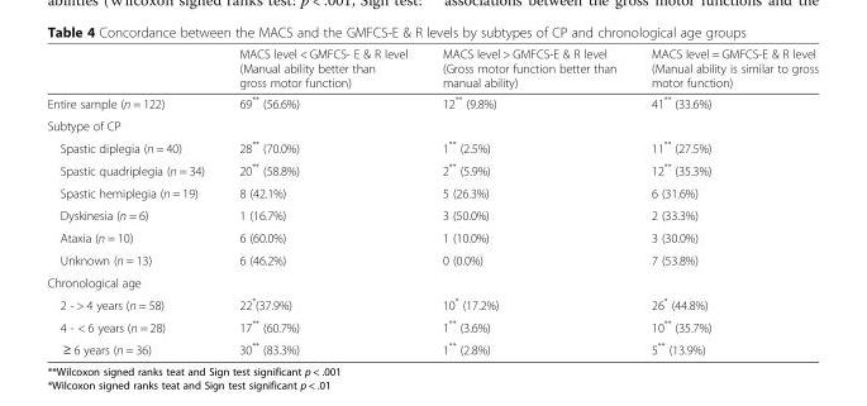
<table><thead><tr><td></td><td>MACS level &lt; GMFCS- E &amp; R level (Manual ability better than gross motor function)</td><td>MACS level &gt; GMFCS-E &amp; R level (Gross motor function better than manual ability)</td><td>MACS level = GMFCS-E &amp; R level (Manual ability is similar to gross motor function)</td></tr></thead><tbody><tr><td>Entire sample (n = 122)</td><td>69** (56.6%)</td><td>12** (9.8%)</td><td>41** (33.6%)</td></tr><tr><td colspan="4">Subtype of CP</td></tr><tr><td>Spastic diplegia (n = 40)</td><td>28** (70.0%)</td><td>1** (2.5%)</td><td>11** (27.5%)</td></tr><tr><td>Spastic quadriplegia (n = 34)</td><td>20** (58.8%)</td><td>2** (5.9%)</td><td>12** (35.3%)</td></tr><tr><td>Spastic hemiplegia (n = 19)</td><td>8 (42.1%)</td><td>5 (26.3%)</td><td>6 (31.6%)</td></tr><tr><td>Dyskinesia (n = 6)</td><td>1 (16.7%)</td><td>3 (50.0%)</td><td>2 (33.3%)</td></tr><tr><td>Ataxia (n = 10)</td><td>6 (60.0%)</td><td>1 (10.0%)</td><td>3 (30.0%)</td></tr><tr><td>Unknown (n = 13)</td><td>6 (46.2%)</td><td>0 (0.0%)</td><td>7 (53.8%)</td></tr><tr><td colspan="4">Chronological age</td></tr><tr><td>2 - &gt; 4 years (n = 58)</td><td>22*(37.9%)</td><td>10* (17.2%)</td><td>26* (44.8%)</td></tr><tr><td>4 - &lt; 6 years (n = 28)</td><td>17** (60.7%)</td><td>1** (3.6%)</td><td>10** (35.7%)</td></tr><tr><td>≥ 6 years (n = 36)</td><td>30** (83.3%)</td><td>1** (2.8%)</td><td>5** (13.9%)</td></tr></tbody></table>